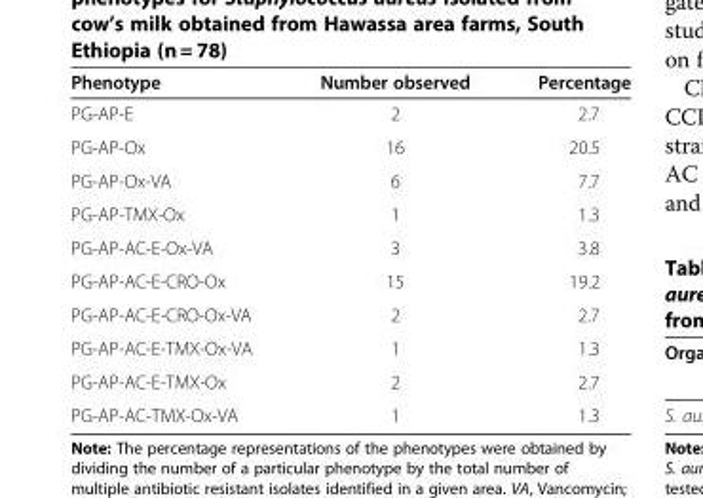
<table><thead><tr><td>Phenotype</td><td>Number observed</td><td>Percentage</td></tr></thead><tbody><tr><td>PG-AP-E</td><td>2</td><td>2.7</td></tr><tr><td>PG-AP-Ox</td><td>16</td><td>20.5</td></tr><tr><td>PG-AP-Ox-VA</td><td>6</td><td>7.7</td></tr><tr><td>PG-AP-TMX-Ox</td><td>1</td><td>1.3</td></tr><tr><td>PG-AP-AC-E-Ox-VA</td><td>3</td><td>3.8</td></tr><tr><td>PG-AP-AC-E-CRO-Ox</td><td>15</td><td>19.2</td></tr><tr><td>PG-AP-AC-E-CRO-Ox-VA</td><td>2</td><td>2.7</td></tr><tr><td>PG-AP-AC-E-TMX-Ox-VA</td><td>1</td><td>1.3</td></tr><tr><td>PG-AP-AC-E-TMX-Ox</td><td>2</td><td>2.7</td></tr><tr><td>PG-AP-AC-TMX-Ox-VA</td><td>1</td><td>1.3</td></tr></tbody></table>